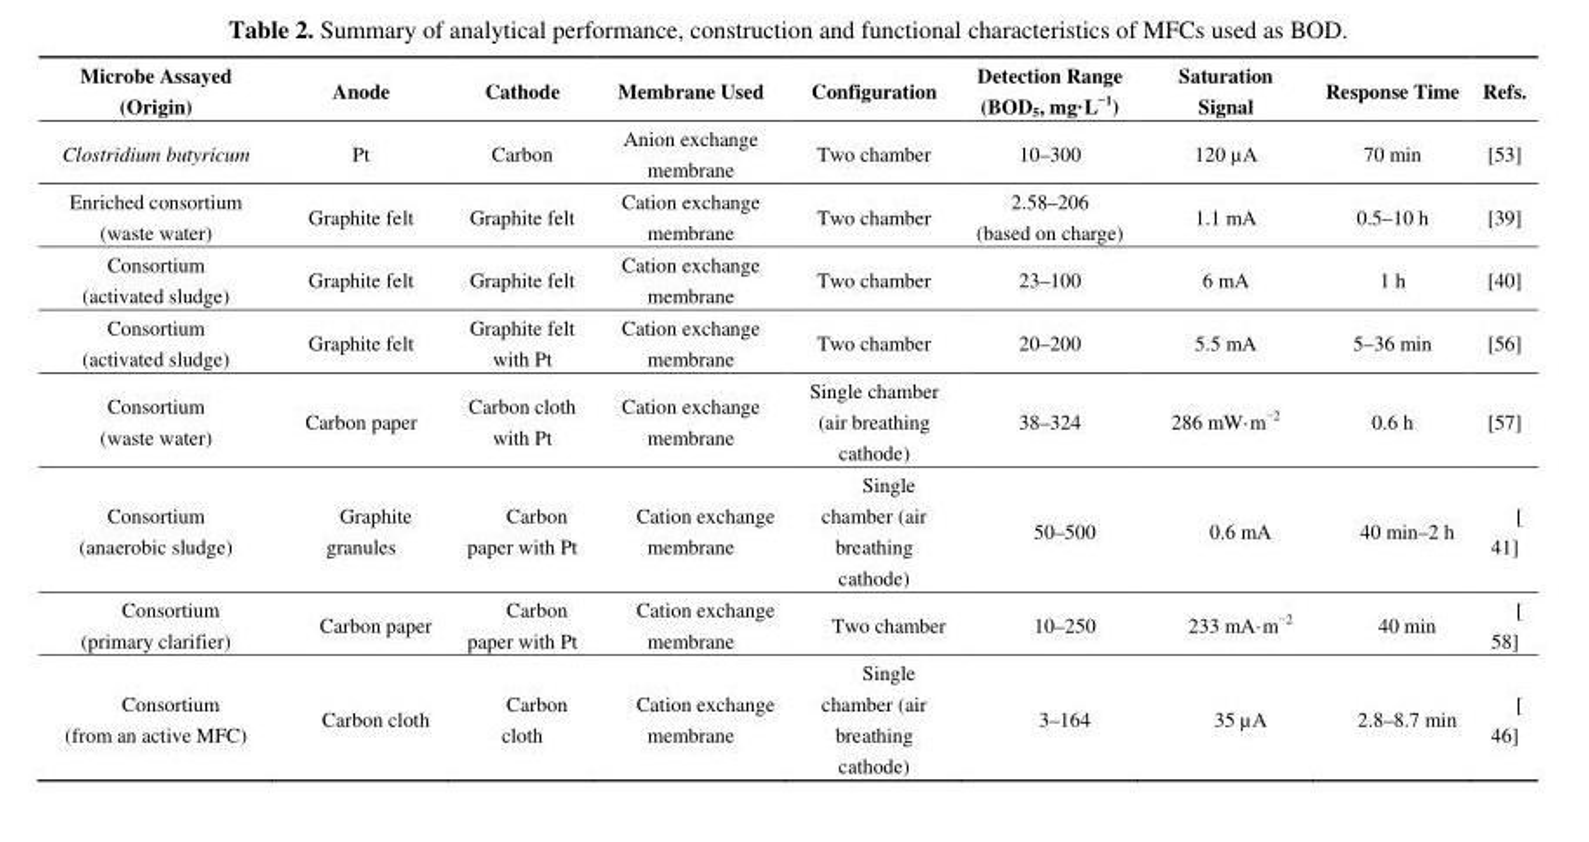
<table><thead><tr><td>Microbe Assayed (Origin)</td><td>Anode</td><td>Cathode</td><td>Membrane Used</td><td>Configuration</td><td>Detection Range (BOD<sub>5</sub>, mg·L<sup>−1</sup>)</td><td>Saturation Signal</td><td>Response Time</td><td>Refs.</td></tr></thead><tbody><tr><td>Clostridium butyricum</td><td>Pt</td><td>Carbon</td><td>Anion exchange membrane</td><td>Two chamber</td><td>10–300</td><td>120 µA</td><td>70 min</td><td>[53]</td></tr><tr><td>Enriched consortium (waste water)</td><td>Graphite felt</td><td>Graphite felt</td><td>Cation exchange membrane</td><td>Two chamber</td><td>2.58–206 (based on charge)</td><td>1.1 mA</td><td>0.5–10 h</td><td>[39]</td></tr><tr><td>Consortium (activated sludge)</td><td>Graphite felt</td><td>Graphite felt</td><td>Cation exchange membrane</td><td>Two chamber</td><td>23–100</td><td>6 mA</td><td>1 h</td><td>[40]</td></tr><tr><td>Consortium (activated sludge)</td><td>Graphite felt</td><td>Graphite felt with Pt</td><td>Cation exchange membrane</td><td>Two chamber</td><td>20–200</td><td>5.5 mA</td><td>5–36 min</td><td>[56]</td></tr><tr><td>Consortium (waste water)</td><td>Carbon paper</td><td>Carbon cloth with Pt</td><td>Cation exchange membrane</td><td>Single chamber (air breathing cathode)</td><td>38–324</td><td>286 mW·m<sup>−2</sup></td><td>0.6 h</td><td>[57]</td></tr><tr><td>Consortium (anaerobic sludge)</td><td>Graphite granules</td><td>Carbon paper with Pt</td><td>Cation exchange membrane</td><td>Single chamber (air breathing cathode)</td><td>50–500</td><td>0.6 mA</td><td>40 min–2 h</td><td>[ 41]</td></tr><tr><td>Consortium (primary clarifier)</td><td>Carbon paper</td><td>Carbon paper with Pt</td><td>Cation exchange membrane</td><td>Two chamber</td><td>10–250</td><td>233 mA·m<sup>−2</sup></td><td>40 min</td><td>[ 58]</td></tr><tr><td>Consortium (from an active MFC)</td><td>Carbon cloth</td><td>Carbon cloth</td><td>Cation exchange membrane</td><td>Single chamber (air breathing cathode)</td><td>3–164</td><td>35 µA</td><td>2.8–8.7 min</td><td>[ 46]</td></tr></tbody></table>